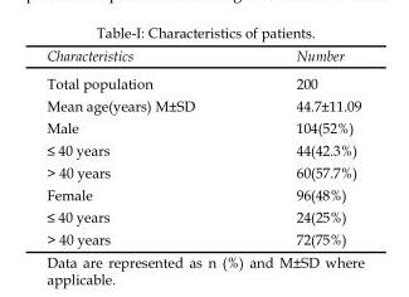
<table><thead><tr><td>Characteristics</td><td>Number</td></tr></thead><tbody><tr><td>Total population</td><td>200</td></tr><tr><td>Mean age(years) M±SD</td><td>44.7±11.09</td></tr><tr><td>Male</td><td>104(52%)</td></tr><tr><td>≤ 40 years</td><td>44(42.3%)</td></tr><tr><td>&gt; 40 years</td><td>60(57.7%)</td></tr><tr><td>Female</td><td>96(48%)</td></tr><tr><td>≤ 40 years</td><td>24(25%)</td></tr><tr><td>&gt; 40 years</td><td>72(75%)</td></tr></tbody></table>